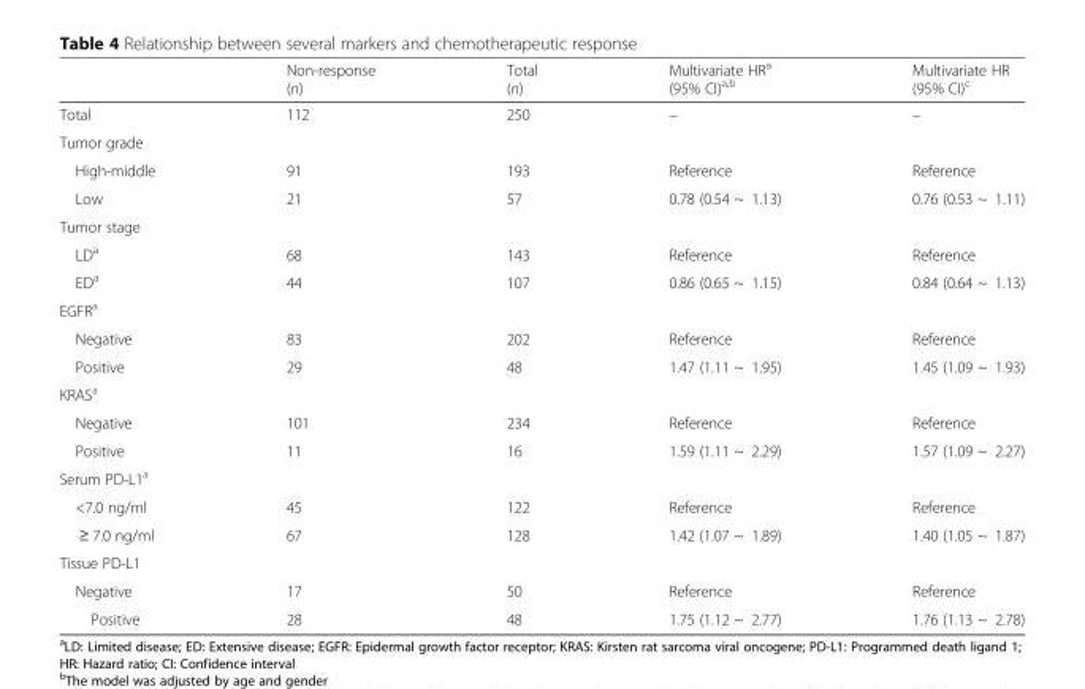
<table><thead><tr><td></td><td>Non-response (n)</td><td>Total (n)</td><td>Multivariate HR<sup>a</sup> (95% CI)<sup>a,b</sup></td><td>Multivariate HR (95% CI)<sup>c</sup></td></tr></thead><tbody><tr><td>Total</td><td>112</td><td>250</td><td>–</td><td>–</td></tr><tr><td colspan="5">Tumor grade</td></tr><tr><td>High-middle</td><td>91</td><td>193</td><td>Reference</td><td>Reference</td></tr><tr><td>Low</td><td>21</td><td>57</td><td>0.78 (0.54 ~ 1.13)</td><td>0.76 (0.53 ~ 1.11)</td></tr><tr><td colspan="5">Tumor stage</td></tr><tr><td>LD<sup>a</sup></td><td>68</td><td>143</td><td>Reference</td><td>Reference</td></tr><tr><td>ED<sup>a</sup></td><td>44</td><td>107</td><td>0.86 (0.65 ~ 1.15)</td><td>0.84 (0.64 ~ 1.13)</td></tr><tr><td colspan="5">EGFR<sup>a</sup></td></tr><tr><td>Negative</td><td>83</td><td>202</td><td>Reference</td><td>Reference</td></tr><tr><td>Positive</td><td>29</td><td>48</td><td>1.47 (1.11 ~ 1.95)</td><td>1.45 (1.09 ~ 1.93)</td></tr><tr><td colspan="5">KRAS<sup>a</sup></td></tr><tr><td>Negative</td><td>101</td><td>234</td><td>Reference</td><td>Reference</td></tr><tr><td>Positive</td><td>11</td><td>16</td><td>1.59 (1.11 ~ 2.29)</td><td>1.57 (1.09 ~ 2.27)</td></tr><tr><td colspan="5">Serum PD-L1<sup>a</sup></td></tr><tr><td>&lt;7.0 ng/ml</td><td>45</td><td>122</td><td>Reference</td><td>Reference</td></tr><tr><td>≥ 7.0 ng/ml</td><td>67</td><td>128</td><td>1.42 (1.07 ~ 1.89)</td><td>1.40 (1.05 ~ 1.87)</td></tr><tr><td colspan="5">Tissue PD-L1</td></tr><tr><td>Negative</td><td>17</td><td>50</td><td>Reference</td><td>Reference</td></tr><tr><td>Positive</td><td>28</td><td>48</td><td>1.75 (1.12 ~ 2.77)</td><td>1.76 (1.13 ~ 2.78)</td></tr></tbody></table>